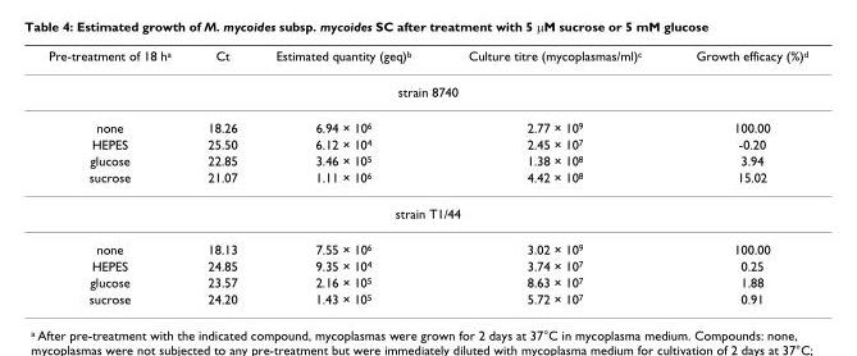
<table><thead><tr><td>Pre-treatment of 18 ha</td><td>Ct</td><td>Estimated quantity (geq)b</td><td>Culture titre (mycoplasmas/ml)c</td><td>Growth efficacy (%)d</td></tr></thead><tbody><tr><td colspan="5">strain 8740</td></tr><tr><td>none</td><td>18.26</td><td>6.94 × 106</td><td>2.77 × 109</td><td>100.00</td></tr><tr><td>HEPES</td><td>25.50</td><td>6.12 × 104</td><td>2.45 × 107</td><td>-0.20</td></tr><tr><td>glucose</td><td>22.85</td><td>3.46 × 105</td><td>1.38 × 108</td><td>3.94</td></tr><tr><td>sucrose</td><td>21.07</td><td>1.11 × 106</td><td>4.42 × 108</td><td>15.02</td></tr><tr><td colspan="5">strain T1/44</td></tr><tr><td>none</td><td>18.13</td><td>7.55 × 106</td><td>3.02 × 109</td><td>100.00</td></tr><tr><td>HEPES</td><td>24.85</td><td>9.35 × 104</td><td>3.74 × 107</td><td>0.25</td></tr><tr><td>glucose</td><td>23.57</td><td>2.16 × 105</td><td>8.63 × 107</td><td>1.88</td></tr><tr><td>sucrose</td><td>24.20</td><td>1.43 × 105</td><td>5.72 × 107</td><td>0.91</td></tr></tbody></table>